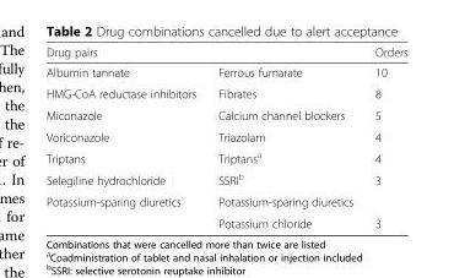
<table><thead><tr><td>Drug pairs</td><td></td><td>Orders</td></tr></thead><tbody><tr><td>Albumin tannate</td><td>Ferrous fumarate</td><td>10</td></tr><tr><td>HMG-CoA reductase inhibitors</td><td>Fibrates</td><td>8</td></tr><tr><td>Miconazole</td><td>Calcium channel blockers</td><td>5</td></tr><tr><td>Voriconazole</td><td>Triazolam</td><td>4</td></tr><tr><td>Triptans</td><td>Triptans<sup>a</sup></td><td>4</td></tr><tr><td>Selegiline hydrochloride</td><td>SSRI<sup>b</sup></td><td>3</td></tr><tr><td rowspan="2">Potassium-sparing diuretics</td><td>Potassium-sparing diuretics</td><td></td></tr><tr><td>Potassium chloride</td><td>3</td></tr></tbody></table>